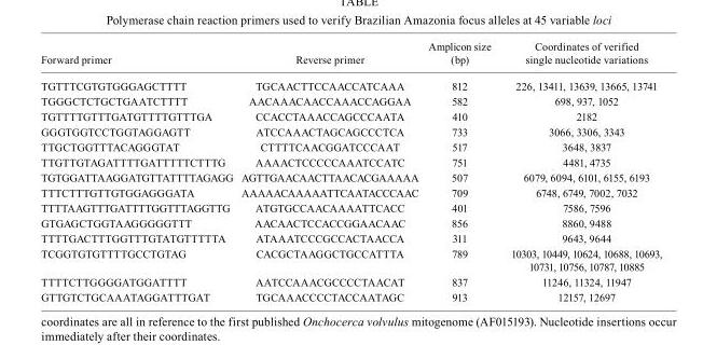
<table><thead><tr><td>Forward primer</td><td>Reverse primer</td><td>Amplicon size (bp)</td><td>Coordinates of verified single nucleotide variations</td></tr></thead><tbody><tr><td>TGTTTCGTGTGGGAGCTTTT</td><td>TGCAACTTCCAACCATCAAA</td><td>812</td><td>226, 13411, 13639, 13665, 13741</td></tr><tr><td>TGGGCTCTGCTGAATCTTTT</td><td>AACAAACAACCAAACCAGGAA</td><td>582</td><td>698, 937, 1052</td></tr><tr><td>TGTTTTGTTTGATGTTTTGTTTGA</td><td>CCACCTAAACCAGCCCAATA</td><td>410</td><td>2182</td></tr><tr><td>GGGTGGTCCTGGTAGGAGTT</td><td>ATCCAAACTAGCAGCCCTCA</td><td>733</td><td>3066, 3306, 3343</td></tr><tr><td>TTGCTGGTTTACAGGGTAT</td><td>CTTTTCAACGGATCCCAAT</td><td>517</td><td>3648, 3837</td></tr><tr><td>TTGTTGTAGATTTTGATTTTTCTTTG</td><td>AAAACTCCCCCAAATCCATC</td><td>751</td><td>4481, 4735</td></tr><tr><td>TGTGGATTAAGGATGTTATTTTAGAGG</td><td>AGTTGAACAACTTAACACGAAAAA</td><td>507</td><td>6079, 6094, 6101, 6155, 6193</td></tr><tr><td>TTTCTTTGTTGTGGAGGGATA</td><td>AAAAACAAAAATTCAATACCCAAC</td><td>709</td><td>6748, 6749, 7002, 7032</td></tr><tr><td>TTTTAAGTTTGATTTTGGTTTAGGTTG</td><td>ATGTGCCAACAAAATTCACC</td><td>401</td><td>7586, 7596</td></tr><tr><td>GTGAGCTGGTAAGGGGGTTT</td><td>AACAACTCCACCGGAACAAC</td><td>856</td><td>8860, 9488</td></tr><tr><td>TTTTGACTTTGGTTTGTATGTTTTTA</td><td>ATAAATCCCGCCACTAACCA</td><td>311</td><td>9643, 9644</td></tr><tr><td>TCGGTGTGTTTTGCCTGTAG</td><td>CACGCTAAGGCTGCCATTTA</td><td>789</td><td>10303, 10449, 10624, 10688, 10693, 10731, 10756, 10787, 10885</td></tr><tr><td>TTTTCTTGGGGATGGATTTT</td><td>AATCCAAACGCCCCTAACAT</td><td>837</td><td>11246, 11324, 11947</td></tr><tr><td>GTTGTCTGCAAATAGGATTTGAT</td><td>TGCAAACCCCTACCAATAGC</td><td>913</td><td>12157, 12697</td></tr></tbody></table>